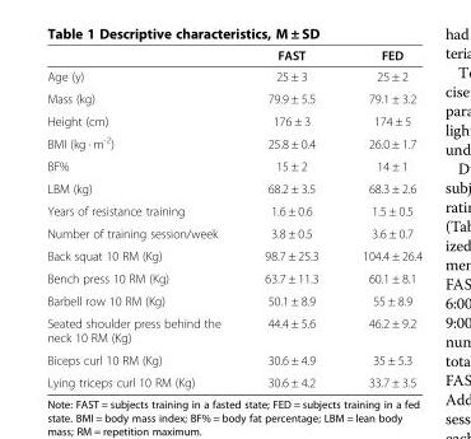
<table><thead><tr><td></td><td>FAST</td><td>FED</td></tr></thead><tbody><tr><td>Age (y)</td><td>25 ± 3</td><td>25 ± 2</td></tr><tr><td>Mass (kg)</td><td>79.9 ± 5.5</td><td>79.1 ± 3.2</td></tr><tr><td>Height (cm)</td><td>176 ± 3</td><td>174 ± 5</td></tr><tr><td>BMI (kg · m<sup>-2</sup>)</td><td>25.8 ± 0.4</td><td>26.0 ± 1.7</td></tr><tr><td>BF%</td><td>15 ± 2</td><td>14 ± 1</td></tr><tr><td>LBM (kg)</td><td>68.2 ± 3.5</td><td>68.3 ± 2.6</td></tr><tr><td>Years of resistance training</td><td>1.6 ± 0.6</td><td>1.5 ± 0.5</td></tr><tr><td>Number of training session/week</td><td>3.8 ± 0.5</td><td>3.6 ± 0.7</td></tr><tr><td>Back squat 10 RM (Kg)</td><td>98.7 ± 25.3</td><td>104.4 ± 26.4</td></tr><tr><td>Bench press 10 RM (Kg)</td><td>63.7 ± 11.3</td><td>60.1 ± 8.1</td></tr><tr><td>Barbell row 10 RM (Kg)</td><td>50.1 ± 8.9</td><td>55 ± 8.9</td></tr><tr><td>Seated shoulder press behind the neck 10 RM (Kg)</td><td>44.4 ± 5.6</td><td>46.2 ± 9.2</td></tr><tr><td>Biceps curl 10 RM (Kg)</td><td>30.6 ± 4.9</td><td>35 ± 5.3</td></tr><tr><td>Lying triceps curl 10 RM (Kg)</td><td>30.6 ± 4.2</td><td>33.7 ± 3.5</td></tr></tbody></table>